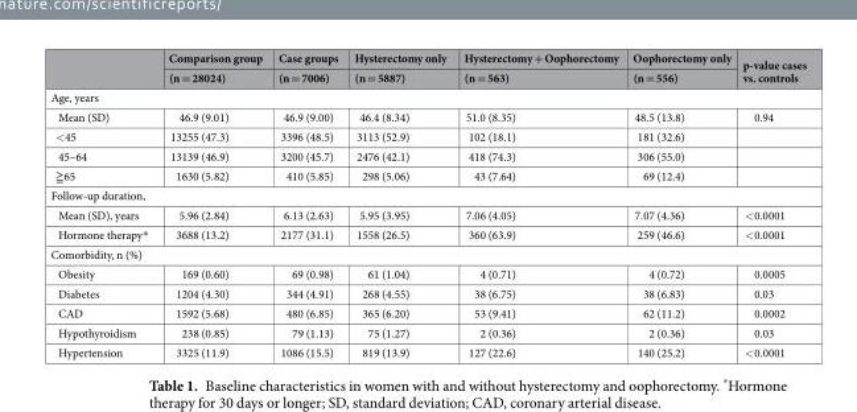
<table><thead><tr><td rowspan="2"></td><td rowspan="2">Comparison group (n = 28024)</td><td rowspan="2">Case groups (n = 7006)</td><td rowspan="2">Hysterectomy only (n = 5887)</td><td rowspan="2">Hysterectomy + Oophorectomy (n = 563)</td><td rowspan="2">Oophorectomy only (n = 556)</td><td rowspan="2">p-value cases vs. controls</td></tr><tr></tr></thead><tbody><tr><td colspan="7">Age, years</td></tr><tr><td>Mean (SD)</td><td>46.9 (9.01)</td><td>46.9 (9.00)</td><td>46.4 (8.34)</td><td>51.0 (8.35)</td><td>48.5 (13.8)</td><td>0.94</td></tr><tr><td>&lt;45</td><td>13255 (47.3)</td><td>3396 (48.5)</td><td>3113 (52.9)</td><td>102 (18.1)</td><td>181 (32.6)</td><td></td></tr><tr><td>45–64</td><td>13139 (46.9)</td><td>3200 (45.7)</td><td>2476 (42.1)</td><td>418 (74.3)</td><td>306 (55.0)</td><td></td></tr><tr><td>≧65</td><td>1630 (5.82)</td><td>410 (5.85)</td><td>298 (5.06)</td><td>43 (7.64)</td><td>69 (12.4)</td><td></td></tr><tr><td colspan="7">Follow-up duration,</td></tr><tr><td>Mean (SD), years</td><td>5.96 (2.84)</td><td>6.13 (2.63)</td><td>5.95 (3.95)</td><td>7.06 (4.05)</td><td>7.07 (4.36)</td><td>&lt;0.0001</td></tr><tr><td>Hormone therapy*</td><td>3688 (13.2)</td><td>2177 (31.1)</td><td>1558 (26.5)</td><td>360 (63.9)</td><td>259 (46.6)</td><td>&lt;0.0001</td></tr><tr><td colspan="7">Comorbidity, n (%)</td></tr><tr><td>Obesity</td><td>169 (0.60)</td><td>69 (0.98)</td><td>61 (1.04)</td><td>4 (0.71)</td><td>4 (0.72)</td><td>0.0005</td></tr><tr><td>Diabetes</td><td>1204 (4.30)</td><td>344 (4.91)</td><td>268 (4.55)</td><td>38 (6.75)</td><td>38 (6.83)</td><td>0.03</td></tr><tr><td>CAD</td><td>1592 (5.68)</td><td>480 (6.85)</td><td>365 (6.20)</td><td>53 (9.41)</td><td>62 (11.2)</td><td>0.0002</td></tr><tr><td>Hypothyroidism</td><td>238 (0.85)</td><td>79 (1.13)</td><td>75 (1.27)</td><td>2 (0.36)</td><td>2 (0.36)</td><td>0.03</td></tr><tr><td>Hypertension</td><td>3325 (11.9)</td><td>1086 (15.5)</td><td>819 (13.9)</td><td>127 (22.6)</td><td>140 (25.2)</td><td>&lt;0.0001</td></tr></tbody></table>